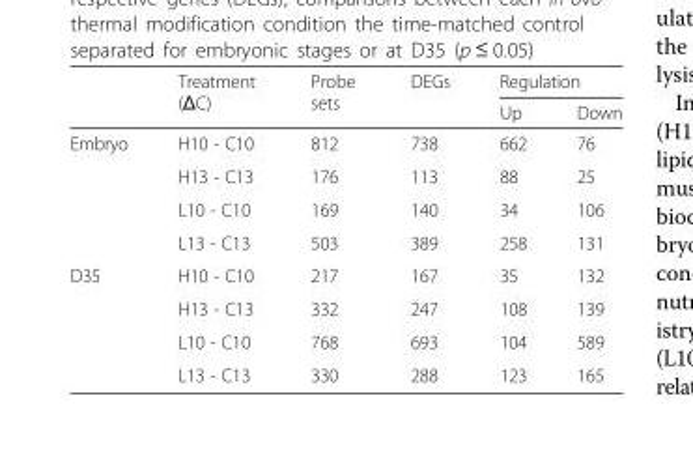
<table><thead><tr><td rowspan="2"></td><td rowspan="2">Treatment (ΔC)</td><td rowspan="2">Probe sets</td><td rowspan="2">DEGs</td><td colspan="2">Regulation</td></tr><tr><td>Up</td><td>Down</td></tr></thead><tbody><tr><td rowspan="4">Embryo</td><td>H10 - C10</td><td>812</td><td>738</td><td>662</td><td>76</td></tr><tr><td>H13 - C13</td><td>176</td><td>113</td><td>88</td><td>25</td></tr><tr><td>L10 - C10</td><td>169</td><td>140</td><td>34</td><td>106</td></tr><tr><td>L13 - C13</td><td>503</td><td>389</td><td>258</td><td>131</td></tr><tr><td rowspan="4">D35</td><td>H10 - C10</td><td>217</td><td>167</td><td>35</td><td>132</td></tr><tr><td>H13 - C13</td><td>332</td><td>247</td><td>108</td><td>139</td></tr><tr><td>L10 - C10</td><td>768</td><td>693</td><td>104</td><td>589</td></tr><tr><td>L13 - C13</td><td>330</td><td>288</td><td>123</td><td>165</td></tr></tbody></table>